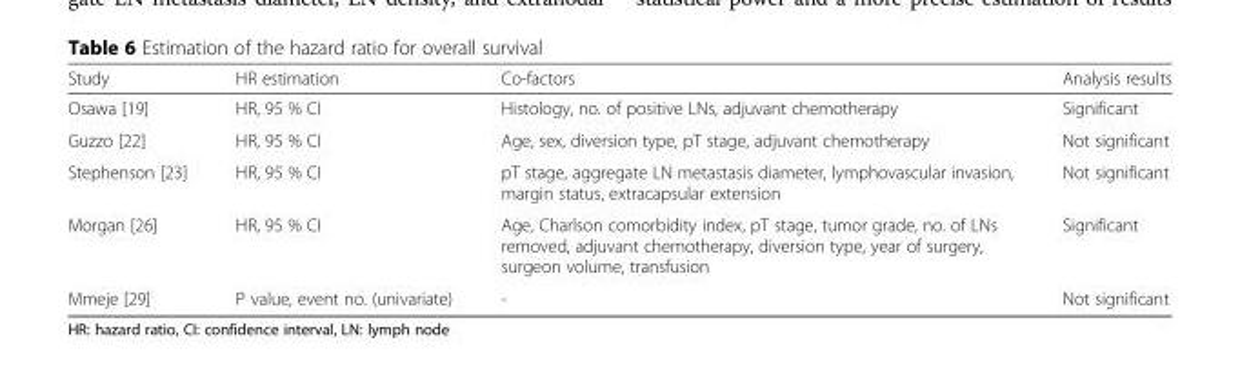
<table><thead><tr><td>Study</td><td>HR estimation</td><td>Co-factors</td><td>Analysis results</td></tr></thead><tbody><tr><td>Osawa [19]</td><td>HR, 95 % CI</td><td>Histology, no. of positive LNs, adjuvant chemotherapy</td><td>Significant</td></tr><tr><td>Guzzo [22]</td><td>HR, 95 % CI</td><td>Age, sex, diversion type, pT stage, adjuvant chemotherapy</td><td>Not significant</td></tr><tr><td>Stephenson [23]</td><td>HR, 95 % CI</td><td>pT stage, aggregate LN metastasis diameter, lymphovascular invasion, margin status, extracapsular extension</td><td>Not significant</td></tr><tr><td>Morgan [26]</td><td>HR, 95 % CI</td><td>Age, Charlson comorbidity index, pT stage, tumor grade, no. of LNs removed, adjuvant chemotherapy, diversion type, year of surgery, surgeon volume, transfusion</td><td>Significant</td></tr><tr><td>Mmeje [29]</td><td>P value, event no. (univariate)</td><td>-</td><td>Not significant</td></tr></tbody></table>